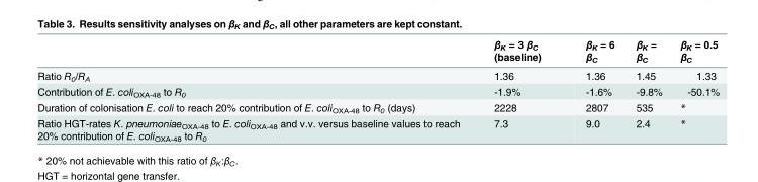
<table><thead><tr><td></td><td>β<sub>K</sub> = 3 β<sub>C</sub> (baseline)</td><td>β<sub>K</sub> = 6 β<sub>C</sub></td><td>β<sub>K</sub> = β<sub>C</sub></td><td>β<sub>K</sub> = 0.5 β<sub>C</sub></td></tr></thead><tbody><tr><td>Ratio R<sub>0</sub>/R<sub>A</sub></td><td>1.36</td><td>1.36</td><td>1.45</td><td>1.33</td></tr><tr><td>Contribution of E. coli<sub>OXA-48</sub> to R<sub>0</sub></td><td>-1.9%</td><td>-1.6%</td><td>-9.8%</td><td>-50.1%</td></tr><tr><td>Duration of colonisation E. coli to reach 20% contribution of E. coli<sub>OXA-48</sub> to R<sub>0</sub> (days)</td><td>2228</td><td>2807</td><td>535</td><td>*</td></tr><tr><td>Ratio HGT-rates K. pneumoniae<sub>OXA-48</sub> to E. coli<sub>OXA-48</sub> and v.v. versus baseline values to reach 20% contribution of E. coli<sub>OXA-48</sub> to R<sub>0</sub></td><td>7.3</td><td>9.0</td><td>2.4</td><td>*</td></tr></tbody></table>